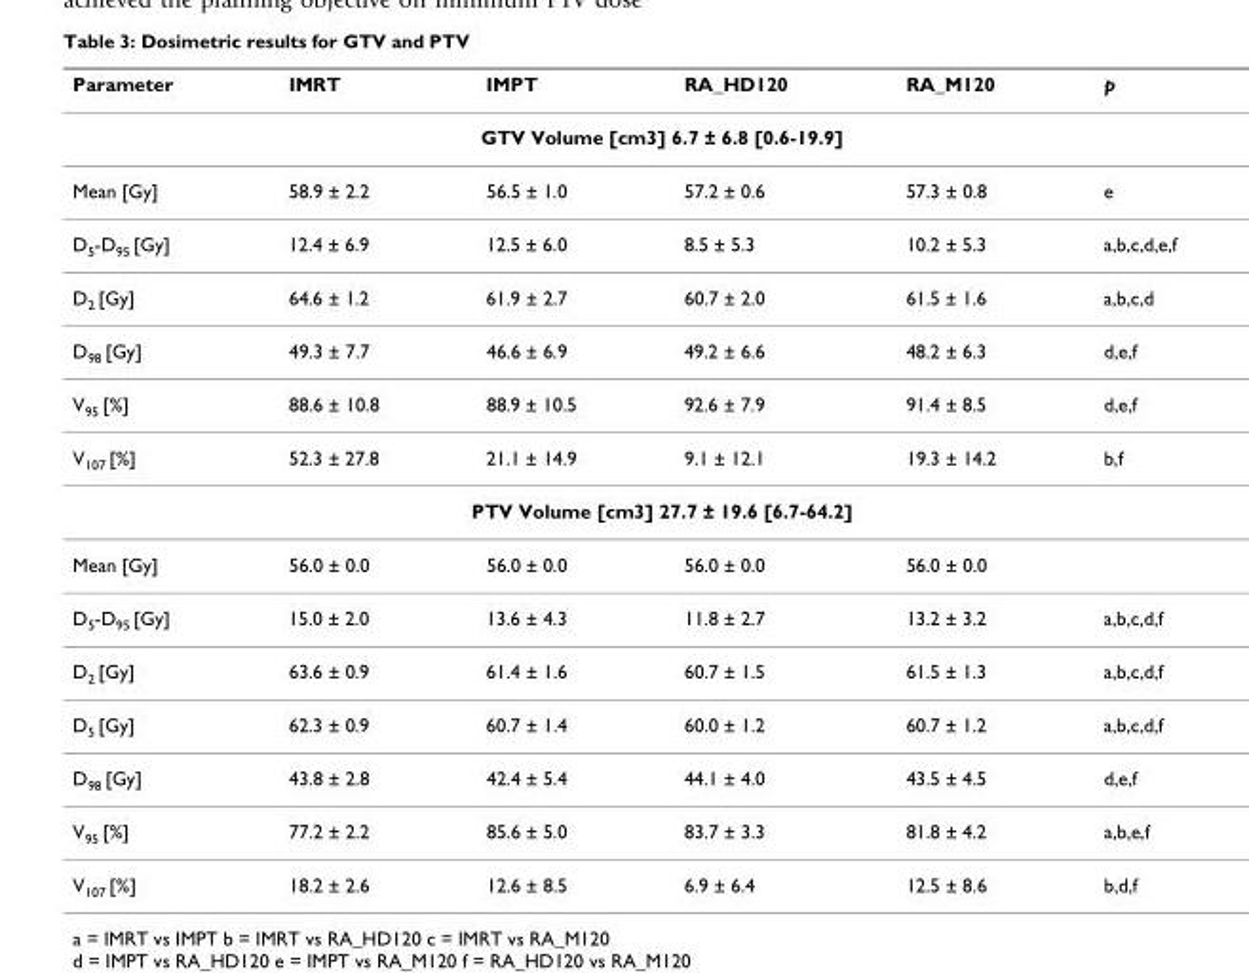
<table><thead><tr><td>Parameter</td><td>IMRT</td><td>IMPT</td><td>RA_HD120</td><td>RA_M120</td><td>p</td></tr></thead><tbody><tr><td colspan="6">GTV Volume [cm3] 6.7 ± 6.8 [0.6-19.9]</td></tr><tr><td>Mean [Gy]</td><td>58.9 ± 2.2</td><td>56.5 ± 1.0</td><td>57.2 ± 0.6</td><td>57.3 ± 0.8</td><td>e</td></tr><tr><td>D<sub>5</sub>-D<sub>95</sub> [Gy]</td><td>12.4 ± 6.9</td><td>12.5 ± 6.0</td><td>8.5 ± 5.3</td><td>10.2 ± 5.3</td><td>a,b,c,d,e,f</td></tr><tr><td>D<sub>2</sub> [Gy]</td><td>64.6 ± 1.2</td><td>61.9 ± 2.7</td><td>60.7 ± 2.0</td><td>61.5 ± 1.6</td><td>a,b,c,d</td></tr><tr><td>D<sub>98</sub> [Gy]</td><td>49.3 ± 7.7</td><td>46.6 ± 6.9</td><td>49.2 ± 6.6</td><td>48.2 ± 6.3</td><td>d,e,f</td></tr><tr><td>V<sub>95</sub> [%]</td><td>88.6 ± 10.8</td><td>88.9 ± 10.5</td><td>92.6 ± 7.9</td><td>91.4 ± 8.5</td><td>d,e,f</td></tr><tr><td>V<sub>107</sub> [%]</td><td>52.3 ± 27.8</td><td>21.1 ± 14.9</td><td>9.1 ± 12.1</td><td>19.3 ± 14.2</td><td>b,f</td></tr><tr><td colspan="6">PTV Volume [cm3] 27.7 ± 19.6 [6.7-64.2]</td></tr><tr><td>Mean [Gy]</td><td>56.0 ± 0.0</td><td>56.0 ± 0.0</td><td>56.0 ± 0.0</td><td>56.0 ± 0.0</td><td></td></tr><tr><td>D<sub>5</sub>-D<sub>95</sub> [Gy]</td><td>15.0 ± 2.0</td><td>13.6 ± 4.3</td><td>11.8 ± 2.7</td><td>13.2 ± 3.2</td><td>a,b,c,d,f</td></tr><tr><td>D<sub>2</sub> [Gy]</td><td>63.6 ± 0.9</td><td>61.4 ± 1.6</td><td>60.7 ± 1.5</td><td>61.5 ± 1.3</td><td>a,b,c,d,f</td></tr><tr><td>D<sub>5</sub> [Gy]</td><td>62.3 ± 0.9</td><td>60.7 ± 1.4</td><td>60.0 ± 1.2</td><td>60.7 ± 1.2</td><td>a,b,c,d,f</td></tr><tr><td>D<sub>98</sub> [Gy]</td><td>43.8 ± 2.8</td><td>42.4 ± 5.4</td><td>44.1 ± 4.0</td><td>43.5 ± 4.5</td><td>d,e,f</td></tr><tr><td>V<sub>95</sub> [%]</td><td>77.2 ± 2.2</td><td>85.6 ± 5.0</td><td>83.7 ± 3.3</td><td>81.8 ± 4.2</td><td>a,b,e,f</td></tr><tr><td>V<sub>107</sub> [%]</td><td>18.2 ± 2.6</td><td>12.6 ± 8.5</td><td>6.9 ± 6.4</td><td>12.5 ± 8.6</td><td>b,d,f</td></tr></tbody></table>